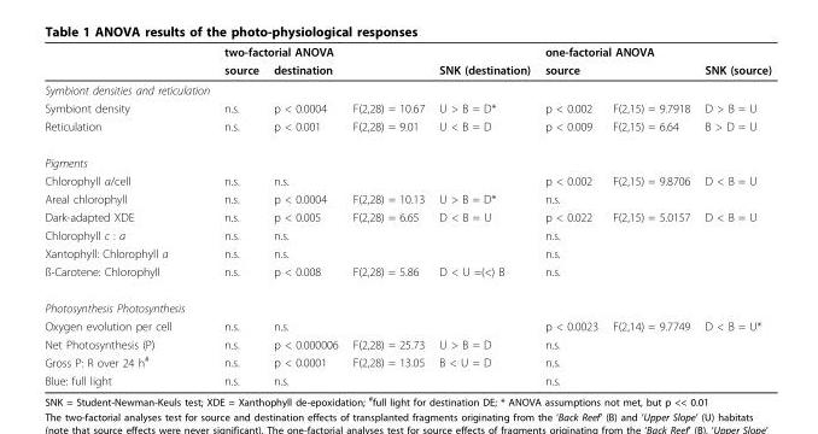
<table><thead><tr><td rowspan="3">Symbiont densities and reticulation</td><td colspan="4">two-factorial ANOVA</td><td colspan="3">one-factorial ANOVA</td></tr><tr><td rowspan="2">source</td><td colspan="2">destination</td><td rowspan="2">SNK (destination)</td><td colspan="2">source</td><td rowspan="2">SNK (source)</td></tr><tr><td></td><td></td><td></td><td></td></tr></thead><tbody><tr><td>Symbiont density</td><td>n.s.</td><td>p &lt; 0.0004</td><td>F(2,28) = 10.67</td><td>U &gt; B = D*</td><td>p &lt; 0.002</td><td>F(2,15) = 9.7918</td><td>D &gt; B = U</td></tr><tr><td>Reticulation</td><td>n.s.</td><td>p &lt; 0.001</td><td>F(2,28) = 9.01</td><td>U &lt; B = D</td><td>p &lt; 0.009</td><td>F(2,15) = 6.64</td><td>B &gt; D = U</td></tr><tr><td colspan="8">Pigments</td></tr><tr><td>Chlorophyll a/cell</td><td>n.s.</td><td>n.s.</td><td></td><td></td><td>p &lt; 0.002</td><td>F(2,15) = 9.8706</td><td>D &lt; B = U</td></tr><tr><td>Areal chlorophyll</td><td>n.s.</td><td>p &lt; 0.0004</td><td>F(2,28) = 10.13</td><td>U &gt; B = D*</td><td>n.s.</td><td></td><td></td></tr><tr><td>Dark-adapted XDE</td><td>n.s.</td><td>p &lt; 0.005</td><td>F(2,28) = 6.65</td><td>D &lt; B = U</td><td>p &lt; 0.022</td><td>F(2,15) = 5.0157</td><td>D &lt; B = U</td></tr><tr><td>Chlorophyll c : a</td><td>n.s.</td><td>n.s.</td><td></td><td></td><td>n.s.</td><td></td><td></td></tr><tr><td>Xantophyll: Chlorophyll a</td><td>n.s.</td><td>n.s.</td><td></td><td></td><td>n.s.</td><td></td><td></td></tr><tr><td>ß-Carotene: Chlorophyll</td><td>n.s.</td><td>p &lt; 0.008</td><td>F(2,28) = 5.86</td><td>D &lt; U =(&lt;) B</td><td>n.s.</td><td></td><td></td></tr><tr><td colspan="8">Photosynthesis Photosynthesis</td></tr><tr><td>Oxygen evolution per cell</td><td>n.s.</td><td>n.s.</td><td></td><td></td><td>p &lt; 0.0023</td><td>F(2,14) = 9.7749</td><td>D &lt; B = U*</td></tr><tr><td>Net Photosynthesis (P)</td><td>n.s.</td><td>p &lt; 0.000006</td><td>F(2,28) = 25.73</td><td>U &gt; B = D</td><td>n.s.</td><td></td><td></td></tr><tr><td>Gross P: R over 24 h<sup>#</sup></td><td>n.s.</td><td>p &lt; 0.0001</td><td>F(2,28) = 13.05</td><td>B &lt; U = D</td><td>n.s.</td><td></td><td></td></tr><tr><td>Blue: full light</td><td>n.s.</td><td>n.s.</td><td></td><td></td><td>n.s.</td><td></td><td></td></tr></tbody></table>